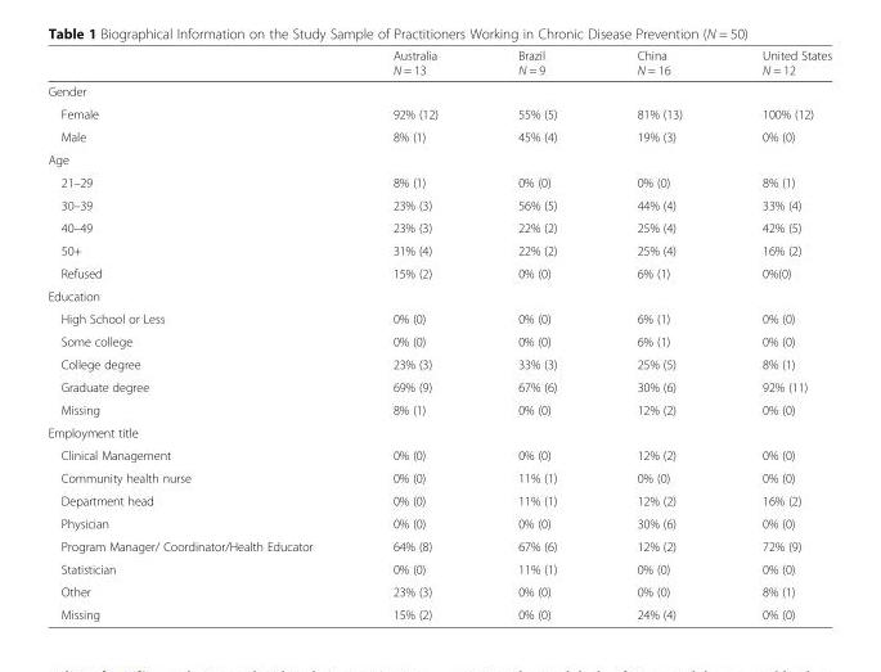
<table><thead><tr><td></td><td>Australia N = 13</td><td>Brazil N = 9</td><td>China N = 16</td><td>United States N = 12</td></tr></thead><tbody><tr><td colspan="5">Gender</td></tr><tr><td>Female</td><td>92% (12)</td><td>55% (5)</td><td>81% (13)</td><td>100% (12)</td></tr><tr><td>Male</td><td>8% (1)</td><td>45% (4)</td><td>19% (3)</td><td>0% (0)</td></tr><tr><td colspan="5">Age</td></tr><tr><td>21–29</td><td>8% (1)</td><td>0% (0)</td><td>0% (0)</td><td>8% (1)</td></tr><tr><td>30–39</td><td>23% (3)</td><td>56% (5)</td><td>44% (4)</td><td>33% (4)</td></tr><tr><td>40–49</td><td>23% (3)</td><td>22% (2)</td><td>25% (4)</td><td>42% (5)</td></tr><tr><td>50+</td><td>31% (4)</td><td>22% (2)</td><td>25% (4)</td><td>16% (2)</td></tr><tr><td>Refused</td><td>15% (2)</td><td>0% (0)</td><td>6% (1)</td><td>0%(0)</td></tr><tr><td colspan="5">Education</td></tr><tr><td>High School or Less</td><td>0% (0)</td><td>0% (0)</td><td>6% (1)</td><td>0% (0)</td></tr><tr><td>Some college</td><td>0% (0)</td><td>0% (0)</td><td>6% (1)</td><td>0% (0)</td></tr><tr><td>College degree</td><td>23% (3)</td><td>33% (3)</td><td>25% (5)</td><td>8% (1)</td></tr><tr><td>Graduate degree</td><td>69% (9)</td><td>67% (6)</td><td>30% (6)</td><td>92% (11)</td></tr><tr><td>Missing</td><td>8% (1)</td><td>0% (0)</td><td>12% (2)</td><td>0% (0)</td></tr><tr><td colspan="5">Employment title</td></tr><tr><td>Clinical Management</td><td>0% (0)</td><td>0% (0)</td><td>12% (2)</td><td>0% (0)</td></tr><tr><td>Community health nurse</td><td>0% (0)</td><td>11% (1)</td><td>0% (0)</td><td>0% (0)</td></tr><tr><td>Department head</td><td>0% (0)</td><td>11% (1)</td><td>12% (2)</td><td>16% (2)</td></tr><tr><td>Physician</td><td>0% (0)</td><td>0% (0)</td><td>30% (6)</td><td>0% (0)</td></tr><tr><td>Program Manager/ Coordinator/Health Educator</td><td>64% (8)</td><td>67% (6)</td><td>12% (2)</td><td>72% (9)</td></tr><tr><td>Statistician</td><td>0% (0)</td><td>11% (1)</td><td>0% (0)</td><td>0% (0)</td></tr><tr><td>Other</td><td>23% (3)</td><td>0% (0)</td><td>0% (0)</td><td>8% (1)</td></tr><tr><td>Missing</td><td>15% (2)</td><td>0% (0)</td><td>24% (4)</td><td>0% (0)</td></tr></tbody></table>